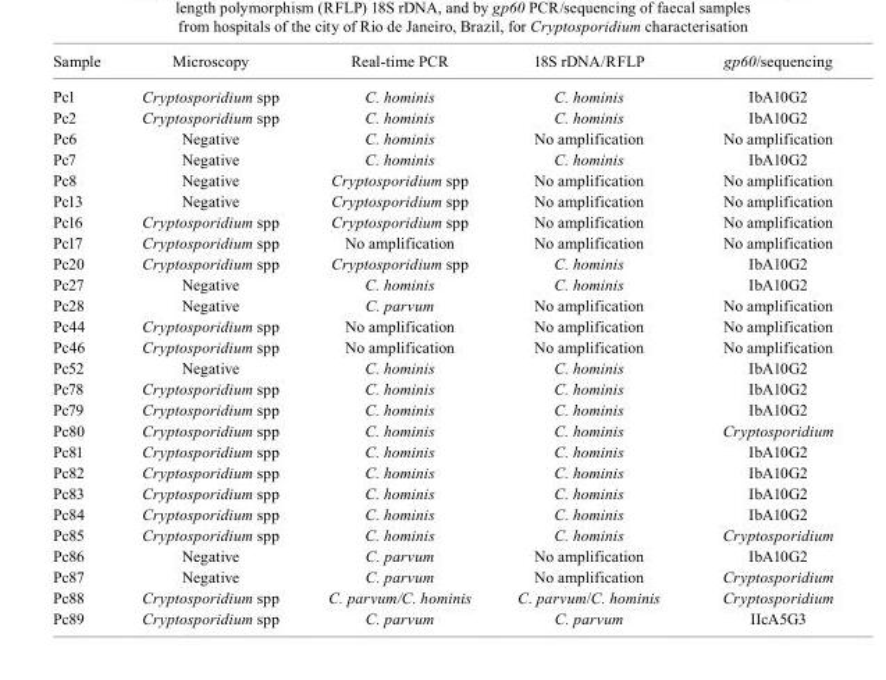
<table><thead><tr><td>Sample</td><td>Microscopy</td><td>Real-time PCR</td><td>18S rDNA/RFLP</td><td>gp60/sequencing</td></tr></thead><tbody><tr><td>Pc1</td><td>Cryptosporidium spp</td><td>C. hominis</td><td>C. hominis</td><td>IbA10G2</td></tr><tr><td>Pc2</td><td>Cryptosporidium spp</td><td>C. hominis</td><td>C. hominis</td><td>IbA10G2</td></tr><tr><td>Pc6</td><td>Negative</td><td>C. hominis</td><td>No amplification</td><td>No amplification</td></tr><tr><td>Pc7</td><td>Negative</td><td>C. hominis</td><td>C. hominis</td><td>IbA10G2</td></tr><tr><td>Pc8</td><td>Negative</td><td>Cryptosporidium spp</td><td>No amplification</td><td>No amplification</td></tr><tr><td>Pc13</td><td>Negative</td><td>Cryptosporidium spp</td><td>No amplification</td><td>No amplification</td></tr><tr><td>Pc16</td><td>Cryptosporidium spp</td><td>Cryptosporidium spp</td><td>No amplification</td><td>No amplification</td></tr><tr><td>Pc17</td><td>Cryptosporidium spp</td><td>No amplification</td><td>No amplification</td><td>No amplification</td></tr><tr><td>Pc20</td><td>Cryptosporidium spp</td><td>Cryptosporidium spp</td><td>C. hominis</td><td>IbA10G2</td></tr><tr><td>Pc27</td><td>Negative</td><td>C. hominis</td><td>C. hominis</td><td>IbA10G2</td></tr><tr><td>Pc28</td><td>Negative</td><td>C. parvum</td><td>No amplification</td><td>No amplification</td></tr><tr><td>Pc44</td><td>Cryptosporidium spp</td><td>No amplification</td><td>No amplification</td><td>No amplification</td></tr><tr><td>Pc46</td><td>Cryptosporidium spp</td><td>No amplification</td><td>No amplification</td><td>No amplification</td></tr><tr><td>Pc52</td><td>Negative</td><td>C. hominis</td><td>C. hominis</td><td>IbA10G2</td></tr><tr><td>Pc78</td><td>Cryptosporidium spp</td><td>C. hominis</td><td>C. hominis</td><td>IbA10G2</td></tr><tr><td>Pc79</td><td>Cryptosporidium spp</td><td>C. hominis</td><td>C. hominis</td><td>IbA10G2</td></tr><tr><td>Pc80</td><td>Cryptosporidium spp</td><td>C. hominis</td><td>C. hominis</td><td>Cryptosporidium</td></tr><tr><td>Pc81</td><td>Cryptosporidium spp</td><td>C. hominis</td><td>C. hominis</td><td>IbA10G2</td></tr><tr><td>Pc82</td><td>Cryptosporidium spp</td><td>C. hominis</td><td>C. hominis</td><td>IbA10G2</td></tr><tr><td>Pc83</td><td>Cryptosporidium spp</td><td>C. hominis</td><td>C. hominis</td><td>IbA10G2</td></tr><tr><td>Pc84</td><td>Cryptosporidium spp</td><td>C. hominis</td><td>C. hominis</td><td>IbA10G2</td></tr><tr><td>Pc85</td><td>Cryptosporidium spp</td><td>C. hominis</td><td>C. hominis</td><td>Cryptosporidium</td></tr><tr><td>Pc86</td><td>Negative</td><td>C. parvum</td><td>No amplification</td><td>IbA10G2</td></tr><tr><td>Pc87</td><td>Negative</td><td>C. parvum</td><td>No amplification</td><td>Cryptosporidium</td></tr><tr><td>Pc88</td><td>Cryptosporidium spp</td><td>C. parvum/C. hominis</td><td>C. parvum/C. hominis</td><td>Cryptosporidium</td></tr><tr><td>Pc89</td><td>Cryptosporidium spp</td><td>C. parvum</td><td>C. parvum</td><td>IIcA5G3</td></tr></tbody></table>